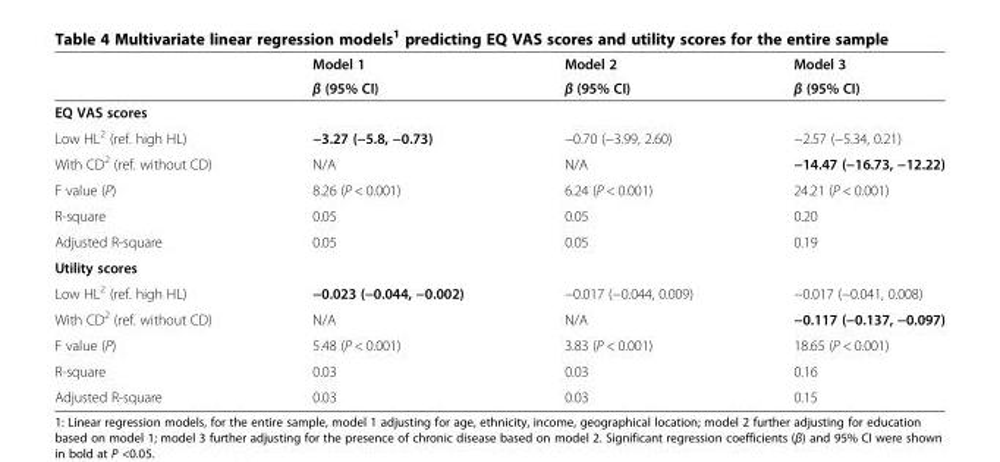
<table><thead><tr><td rowspan="2"></td><td rowspan="2">Model 1 β (95% CI)</td><td rowspan="2">Model 2 β (95% CI)</td><td rowspan="2">Model 3 β (95% CI)</td></tr><tr></tr></thead><tbody><tr><td colspan="4">EQ VAS scores</td></tr><tr><td>Low HL<sup>2</sup> (ref. high HL)</td><td>−3.27 (−5.8, −0.73)</td><td>−0.70 (−3.99, 2.60)</td><td>−2.57 (−5.34, 0.21)</td></tr><tr><td>With CD<sup>2</sup> (ref. without CD)</td><td>N/A</td><td>N/A</td><td>−14.47 (−16.73, −12.22)</td></tr><tr><td>F value (P)</td><td>8.26 (P &lt; 0.001)</td><td>6.24 (P &lt; 0.001)</td><td>24.21 (P &lt; 0.001)</td></tr><tr><td>R-square</td><td>0.05</td><td>0.05</td><td>0.20</td></tr><tr><td>Adjusted R-square</td><td>0.05</td><td>0.05</td><td>0.19</td></tr><tr><td colspan="4">Utility scores</td></tr><tr><td>Low HL<sup>2</sup> (ref. high HL)</td><td>−0.023 (−0.044, −0.002)</td><td>−0.017 (−0.044, 0.009)</td><td>−0.017 (−0.041, 0.008)</td></tr><tr><td>With CD<sup>2</sup> (ref. without CD)</td><td>N/A</td><td>N/A</td><td>−0.117 (−0.137, −0.097)</td></tr><tr><td>F value (P)</td><td>5.48 (P &lt; 0.001)</td><td>3.83 (P &lt; 0.001)</td><td>18.65 (P &lt; 0.001)</td></tr><tr><td>R-square</td><td>0.03</td><td>0.03</td><td>0.16</td></tr><tr><td>Adjusted R-square</td><td>0.03</td><td>0.03</td><td>0.15</td></tr></tbody></table>